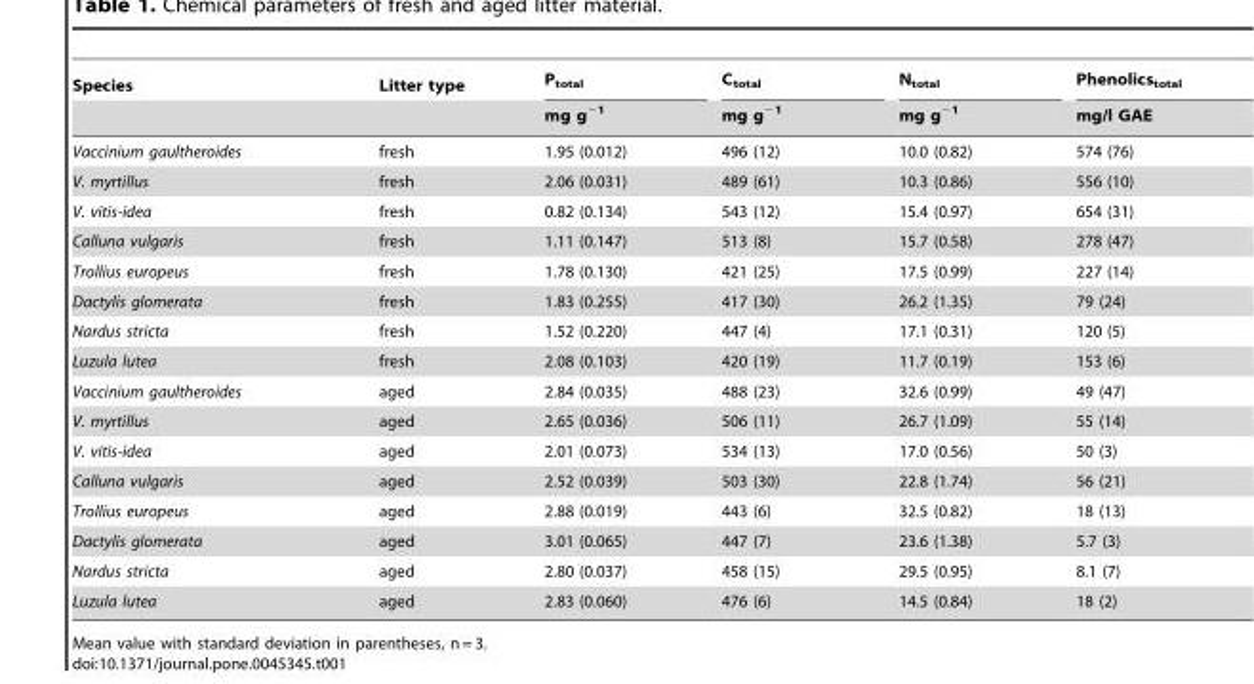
<table><thead><tr><td rowspan="2">Species</td><td rowspan="2">Litter type</td><td rowspan="2">P<sub>total</sub> mg g<sup>−1</sup></td><td rowspan="2">C<sub>total</sub> mg g<sup>−1</sup></td><td rowspan="2">N<sub>total</sub> mg g<sup>−1</sup></td><td rowspan="2">Phenolics<sub>total</sub> mg/l GAE</td></tr><tr></tr></thead><tbody><tr><td>Vaccinium gaultheroides</td><td>fresh</td><td>1.95 (0.012)</td><td>496 (12)</td><td>10.0 (0.82)</td><td>574 (76)</td></tr><tr><td>V. myrtillus</td><td>fresh</td><td>2.06 (0.031)</td><td>489 (61)</td><td>10.3 (0.86)</td><td>556 (10)</td></tr><tr><td>V. vitis-idea</td><td>fresh</td><td>0.82 (0.134)</td><td>543 (12)</td><td>15.4 (0.97)</td><td>654 (31)</td></tr><tr><td>Calluna vulgaris</td><td>fresh</td><td>1.11 (0.147)</td><td>513 (8)</td><td>15.7 (0.58)</td><td>278 (47)</td></tr><tr><td>Trollius europeus</td><td>fresh</td><td>1.78 (0.130)</td><td>421 (25)</td><td>17.5 (0.99)</td><td>227 (14)</td></tr><tr><td>Dactylis glomerata</td><td>fresh</td><td>1.83 (0.255)</td><td>417 (30)</td><td>26.2 (1.35)</td><td>79 (24)</td></tr><tr><td>Nardus stricta</td><td>fresh</td><td>1.52 (0.220)</td><td>447 (4)</td><td>17.1 (0.31)</td><td>120 (5)</td></tr><tr><td>Luzula lutea</td><td>fresh</td><td>2.08 (0.103)</td><td>420 (19)</td><td>11.7 (0.19)</td><td>153 (6)</td></tr><tr><td>Vaccinium gaultheroides</td><td>aged</td><td>2.84 (0.035)</td><td>488 (23)</td><td>32.6 (0.99)</td><td>49 (47)</td></tr><tr><td>V. myrtillus</td><td>aged</td><td>2.65 (0.036)</td><td>506 (11)</td><td>26.7 (1.09)</td><td>55 (14)</td></tr><tr><td>V. vitis-idea</td><td>aged</td><td>2.01 (0.073)</td><td>534 (13)</td><td>17.0 (0.56)</td><td>50 (3)</td></tr><tr><td>Calluna vulgaris</td><td>aged</td><td>2.52 (0.039)</td><td>503 (30)</td><td>22.8 (1.74)</td><td>56 (21)</td></tr><tr><td>Trollius europeus</td><td>aged</td><td>2.88 (0.019)</td><td>443 (6)</td><td>32.5 (0.82)</td><td>18 (13)</td></tr><tr><td>Dactylis glomerata</td><td>aged</td><td>3.01 (0.065)</td><td>447 (7)</td><td>23.6 (1.38)</td><td>5.7 (3)</td></tr><tr><td>Nardus stricta</td><td>aged</td><td>2.80 (0.037)</td><td>458 (15)</td><td>29.5 (0.95)</td><td>8.1 (7)</td></tr><tr><td>Luzula lutea</td><td>aged</td><td>2.83 (0.060)</td><td>476 (6)</td><td>14.5 (0.84)</td><td>18 (2)</td></tr></tbody></table>